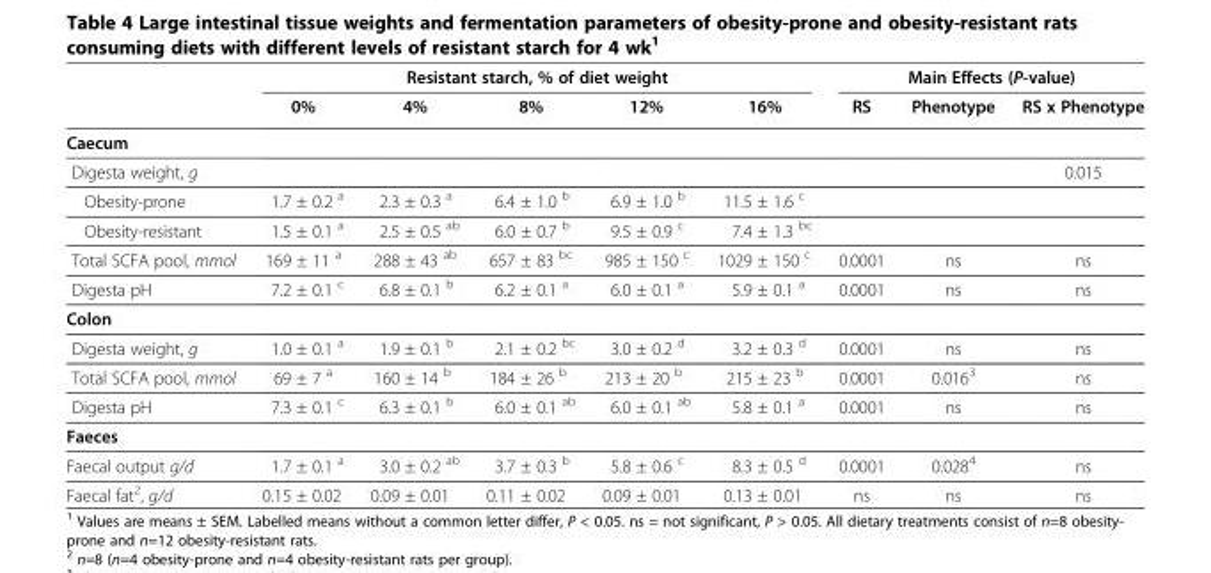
<table><thead><tr><td rowspan="2"></td><td colspan="5">Resistant starch, % of diet weight</td><td colspan="3">Main Effects (P-value)</td></tr><tr><td>0%</td><td>4%</td><td>8%</td><td>12%</td><td>16%</td><td>RS</td><td>Phenotype</td><td>RS x Phenotype</td></tr></thead><tbody><tr><td colspan="9">Caecum</td></tr><tr><td>Digesta weight, g</td><td></td><td></td><td></td><td></td><td></td><td></td><td></td><td>0.015</td></tr><tr><td>Obesity-prone</td><td>1.7 ± 0.2 <sup>a</sup></td><td>2.3 ± 0.3 <sup>a</sup></td><td>6.4 ± 1.0 <sup>b</sup></td><td>6.9 ± 1.0 <sup>b</sup></td><td>11.5 ± 1.6 <sup>c</sup></td><td></td><td></td><td></td></tr><tr><td>Obesity-resistant</td><td>1.5 ± 0.1 <sup>a</sup></td><td>2.5 ± 0.5 <sup>ab</sup></td><td>6.0 ± 0.7 <sup>b</sup></td><td>9.5 ± 0.9 <sup>c</sup></td><td>7.4 ± 1.3 <sup>bc</sup></td><td></td><td></td><td></td></tr><tr><td>Total SCFA pool, mmol</td><td>169 ± 11 <sup>a</sup></td><td>288 ± 43 <sup>ab</sup></td><td>657 ± 83 <sup>bc</sup></td><td>985 ± 150 <sup>c</sup></td><td>1029 ± 150 <sup>c</sup></td><td>0.0001</td><td>ns</td><td>ns</td></tr><tr><td>Digesta pH</td><td>7.2 ± 0.1 <sup>c</sup></td><td>6.8 ± 0.1 <sup>b</sup></td><td>6.2 ± 0.1 <sup>a</sup></td><td>6.0 ± 0.1 <sup>a</sup></td><td>5.9 ± 0.1 <sup>a</sup></td><td>0.0001</td><td>ns</td><td>ns</td></tr><tr><td colspan="9">Colon</td></tr><tr><td>Digesta weight, g</td><td>1.0 ± 0.1 <sup>a</sup></td><td>1.9 ± 0.1 <sup>b</sup></td><td>2.1 ± 0.2 <sup>bc</sup></td><td>3.0 ± 0.2 <sup>d</sup></td><td>3.2 ± 0.3 <sup>d</sup></td><td>0.0001</td><td>ns</td><td>ns</td></tr><tr><td>Total SCFA pool, mmol</td><td>69 ± 7 <sup>a</sup></td><td>160 ± 14 <sup>b</sup></td><td>184 ± 26 <sup>b</sup></td><td>213 ± 20 <sup>b</sup></td><td>215 ± 23 <sup>b</sup></td><td>0.0001</td><td>0.016<sup>3</sup></td><td>ns</td></tr><tr><td>Digesta pH</td><td>7.3 ± 0.1 <sup>c</sup></td><td>6.3 ± 0.1 <sup>b</sup></td><td>6.0 ± 0.1 <sup>ab</sup></td><td>6.0 ± 0.1 <sup>ab</sup></td><td>5.8 ± 0.1 <sup>a</sup></td><td>0.0001</td><td>ns</td><td>ns</td></tr><tr><td colspan="9">Faeces</td></tr><tr><td>Faecal output g/d</td><td>1.7 ± 0.1 <sup>a</sup></td><td>3.0 ± 0.2 <sup>ab</sup></td><td>3.7 ± 0.3 <sup>b</sup></td><td>5.8 ± 0.6 <sup>c</sup></td><td>8.3 ± 0.5 <sup>d</sup></td><td>0.0001</td><td>0.028<sup>4</sup></td><td>ns</td></tr><tr><td>Faecal fat<sup>2</sup>, g/d</td><td>0.15 ± 0.02</td><td>0.09 ± 0.01</td><td>0.11 ± 0.02</td><td>0.09 ± 0.01</td><td>0.13 ± 0.01</td><td>ns</td><td>ns</td><td>ns</td></tr></tbody></table>